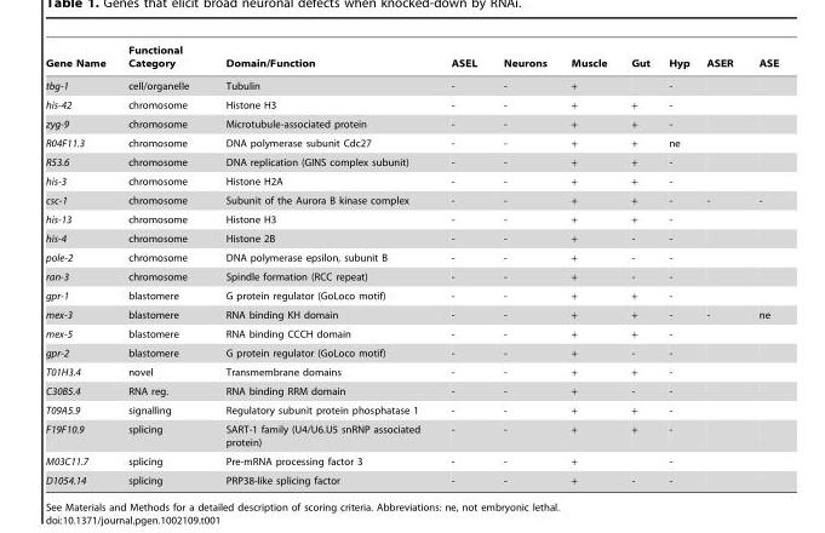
<table><thead><tr><td>Gene Name</td><td>Functional Category</td><td>Domain/Function</td><td>ASEL</td><td>Neurons</td><td>Muscle</td><td>Gut</td><td>Hyp</td><td>ASER</td><td>ASE</td></tr></thead><tbody><tr><td>tbg-1</td><td>cell/organelle</td><td>Tubulin</td><td>-</td><td>-</td><td>+</td><td></td><td>-</td><td></td><td></td></tr><tr><td>his-42</td><td>chromosome</td><td>Histone H3</td><td>-</td><td>-</td><td>+</td><td>+</td><td>-</td><td></td><td></td></tr><tr><td>zyg-9</td><td>chromosome</td><td>Microtubule-associated protein</td><td>-</td><td>-</td><td>+</td><td>+</td><td>-</td><td></td><td></td></tr><tr><td>R04F11.3</td><td>chromosome</td><td>DNA polymerase subunit Cdc27</td><td>-</td><td>-</td><td>+</td><td>+</td><td>ne</td><td></td><td></td></tr><tr><td>R53.6</td><td>chromosome</td><td>DNA replication (GINS complex subunit)</td><td>-</td><td>-</td><td>+</td><td>+</td><td>-</td><td></td><td></td></tr><tr><td>his-3</td><td>chromosome</td><td>Histone H2A</td><td>-</td><td>-</td><td>+</td><td>+</td><td>-</td><td></td><td></td></tr><tr><td>csc-1</td><td>chromosome</td><td>Subunit of the Aurora B kinase complex</td><td>-</td><td>-</td><td>+</td><td>+</td><td>-</td><td>-</td><td>-</td></tr><tr><td>his-13</td><td>chromosome</td><td>Histone H3</td><td>-</td><td>-</td><td>+</td><td>+</td><td>-</td><td></td><td></td></tr><tr><td>his-4</td><td>chromosome</td><td>Histone 2B</td><td>-</td><td>-</td><td>+</td><td>-</td><td>-</td><td></td><td></td></tr><tr><td>pole-2</td><td>chromosome</td><td>DNA polymerase epsilon, subunit B</td><td>-</td><td>-</td><td>+</td><td>-</td><td>-</td><td></td><td></td></tr><tr><td>ran-3</td><td>chromosome</td><td>Spindle formation (RCC repeat)</td><td>-</td><td>-</td><td>+</td><td>-</td><td>-</td><td></td><td></td></tr><tr><td>gpr-1</td><td>blastomere</td><td>G protein regulator (GoLoco motif)</td><td>-</td><td>-</td><td>+</td><td>+</td><td>-</td><td></td><td></td></tr><tr><td>mex-3</td><td>blastomere</td><td>RNA binding KH domain</td><td>-</td><td>-</td><td>+</td><td>+</td><td>-</td><td>-</td><td>ne</td></tr><tr><td>mex-5</td><td>blastomere</td><td>RNA binding CCCH domain</td><td>-</td><td>-</td><td>+</td><td>+</td><td>-</td><td></td><td></td></tr><tr><td>gpr-2</td><td>blastomere</td><td>G protein regulator (GoLoco motif)</td><td>-</td><td>-</td><td>+</td><td>-</td><td>-</td><td></td><td></td></tr><tr><td>T01H3.4</td><td>novel</td><td>Transmembrane domains</td><td>-</td><td>-</td><td>+</td><td>+</td><td>-</td><td></td><td></td></tr><tr><td>C30B5.4</td><td>RNA reg.</td><td>RNA binding RRM domain</td><td>-</td><td>-</td><td>+</td><td>-</td><td>-</td><td></td><td></td></tr><tr><td>T09A5.9</td><td>signalling</td><td>Regulatory subunit protein phosphatase 1</td><td>-</td><td>-</td><td>+</td><td>+</td><td>-</td><td></td><td></td></tr><tr><td>F19F10.9</td><td>splicing</td><td>SART-1 family (U4/U6.U5 snRNP associated protein)</td><td>-</td><td>-</td><td>+</td><td>+</td><td>-</td><td></td><td></td></tr><tr><td>M03C11.7</td><td>splicing</td><td>Pre-mRNA processing factor 3</td><td>-</td><td>-</td><td>+</td><td></td><td>-</td><td></td><td></td></tr><tr><td>D1054.14</td><td>splicing</td><td>PRP38-like splicing factor</td><td>-</td><td>-</td><td>+</td><td>-</td><td>-</td><td></td><td></td></tr></tbody></table>